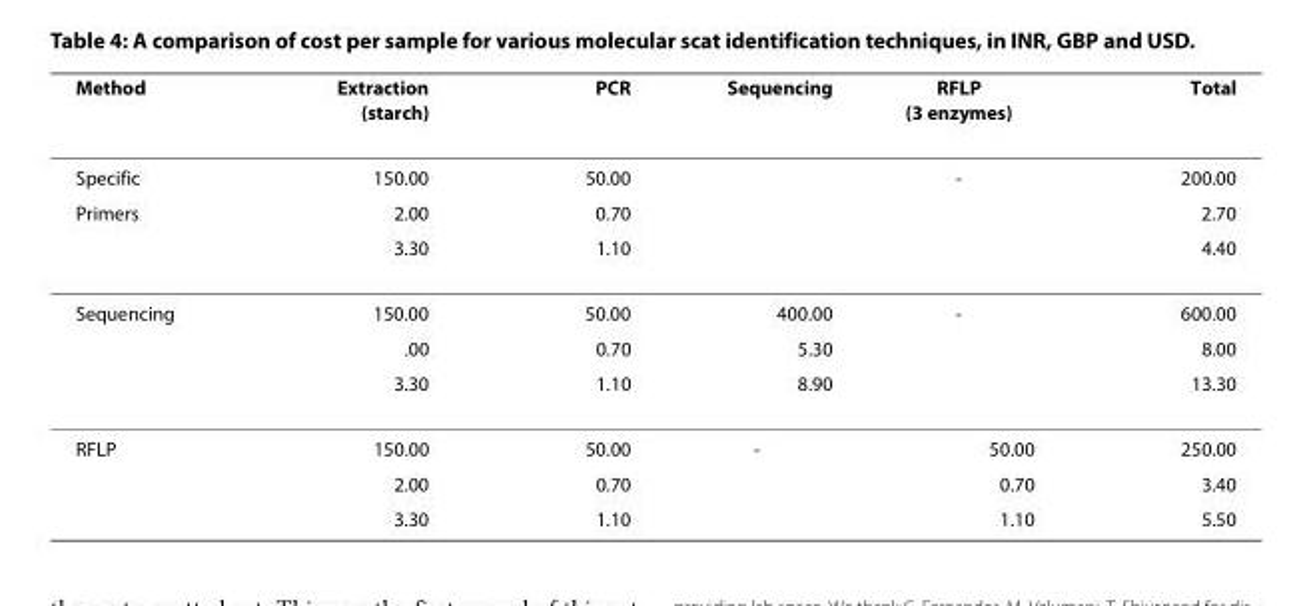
<table><thead><tr><td>Method</td><td>Extraction (starch)</td><td>PCR</td><td>Sequencing</td><td>RFLP (3 enzymes)</td><td>Total</td></tr></thead><tbody><tr><td>Specific</td><td>150.00</td><td>50.00</td><td></td><td>-</td><td>200.00</td></tr><tr><td rowspan="2">Primers</td><td>2.00</td><td>0.70</td><td></td><td></td><td>2.70</td></tr><tr><td>3.30</td><td>1.10</td><td></td><td></td><td>4.40</td></tr><tr><td rowspan="3">Sequencing</td><td>150.00</td><td>50.00</td><td>400.00</td><td>-</td><td>600.00</td></tr><tr><td>.00</td><td>0.70</td><td>5.30</td><td></td><td>8.00</td></tr><tr><td>3.30</td><td>1.10</td><td>8.90</td><td></td><td>13.30</td></tr><tr><td rowspan="3">RFLP</td><td>150.00</td><td>50.00</td><td>-</td><td>50.00</td><td>250.00</td></tr><tr><td>2.00</td><td>0.70</td><td></td><td>0.70</td><td>3.40</td></tr><tr><td>3.30</td><td>1.10</td><td></td><td>1.10</td><td>5.50</td></tr></tbody></table>